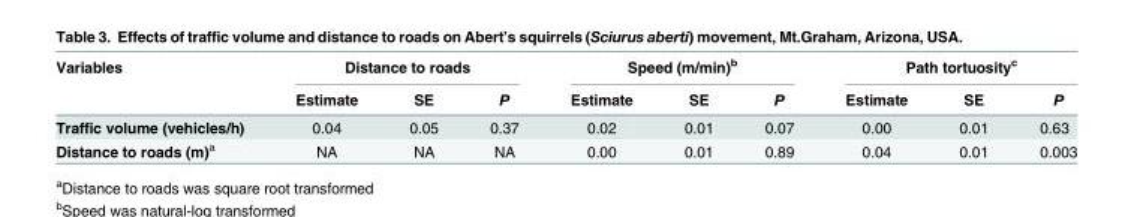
<table><thead><tr><td rowspan="2">Variables</td><td colspan="3">Distance to roads</td><td colspan="3">Speed (m/min)<sup>b</sup></td><td colspan="3">Path tortuosity<sup>c</sup></td></tr><tr><td>Estimate</td><td>SE</td><td>P</td><td>Estimate</td><td>SE</td><td>P</td><td>Estimate</td><td>SE</td><td>P</td></tr></thead><tbody><tr><td>Traffic volume (vehicles/h)</td><td>0.04</td><td>0.05</td><td>0.37</td><td>0.02</td><td>0.01</td><td>0.07</td><td>0.00</td><td>0.01</td><td>0.63</td></tr><tr><td>Distance to roads (m)<sup>a</sup></td><td>NA</td><td>NA</td><td>NA</td><td>0.00</td><td>0.01</td><td>0.89</td><td>0.04</td><td>0.01</td><td>0.003</td></tr></tbody></table>